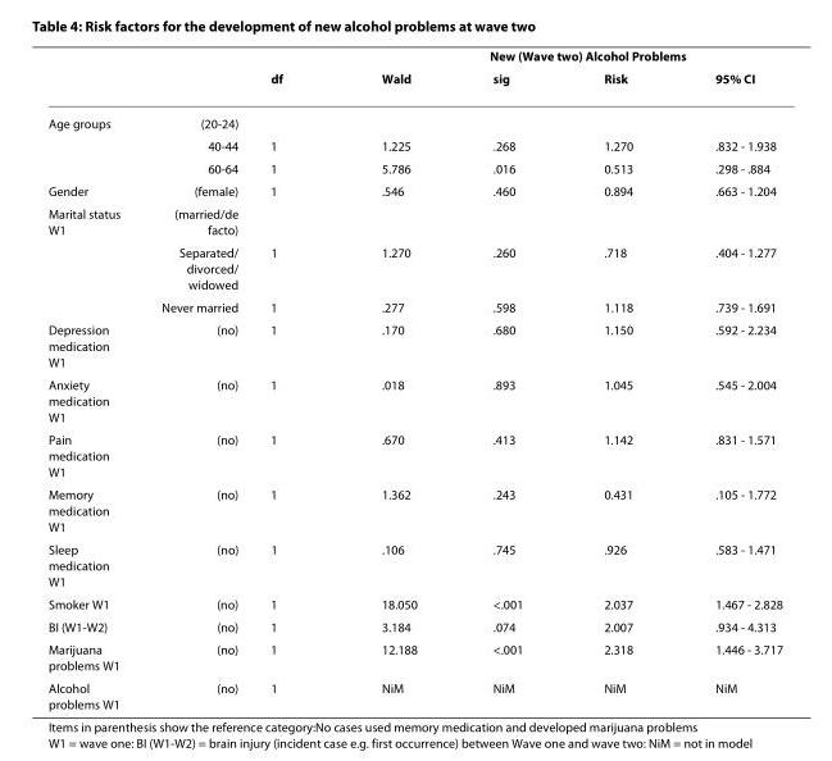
<table><thead><tr><td rowspan="2"></td><td rowspan="2"></td><td rowspan="2">df</td><td colspan="4">New (Wave two) Alcohol Problems</td></tr><tr><td>Wald</td><td>sig</td><td>Risk</td><td>95% CI</td></tr></thead><tbody><tr><td rowspan="3">Age groups</td><td>(20-24)</td><td></td><td></td><td></td><td></td><td></td></tr><tr><td>40-44</td><td>1</td><td>1.225</td><td>.268</td><td>1.270</td><td>.832 - 1.938</td></tr><tr><td>60-64</td><td>1</td><td>5.786</td><td>.016</td><td>0.513</td><td>.298 - .884</td></tr><tr><td>Gender</td><td>(female)</td><td>1</td><td>.546</td><td>.460</td><td>0.894</td><td>.663 - 1.204</td></tr><tr><td rowspan="3">Marital status W1</td><td>(married/de facto)</td><td></td><td></td><td></td><td></td><td></td></tr><tr><td>Separated/ divorced/ widowed</td><td>1</td><td>1.270</td><td>.260</td><td>.718</td><td>.404 - 1.277</td></tr><tr><td>Never married</td><td>1</td><td>.277</td><td>.598</td><td>1.118</td><td>.739 - 1.691</td></tr><tr><td>Depression medication W1</td><td>(no)</td><td>1</td><td>.170</td><td>.680</td><td>1.150</td><td>.592 - 2.234</td></tr><tr><td>Anxiety medication W1</td><td>(no)</td><td>1</td><td>.018</td><td>.893</td><td>1.045</td><td>.545 - 2.004</td></tr><tr><td>Pain medication W1</td><td>(no)</td><td>1</td><td>.670</td><td>.413</td><td>1.142</td><td>.831 - 1.571</td></tr><tr><td>Memory medication W1</td><td>(no)</td><td>1</td><td>1.362</td><td>.243</td><td>0.431</td><td>.105 - 1.772</td></tr><tr><td>Sleep medication W1</td><td>(no)</td><td>1</td><td>.106</td><td>.745</td><td>.926</td><td>.583 - 1.471</td></tr><tr><td>Smoker W1</td><td>(no)</td><td>1</td><td>18.050</td><td>&lt;.001</td><td>2.037</td><td>1.467 - 2.828</td></tr><tr><td>BI (W1-W2)</td><td>(no)</td><td>1</td><td>3.184</td><td>.074</td><td>2.007</td><td>.934 - 4.313</td></tr><tr><td>Marijuana problems W1</td><td>(no)</td><td>1</td><td>12.188</td><td>&lt;.001</td><td>2.318</td><td>1.446 - 3.717</td></tr><tr><td>Alcohol problems W1</td><td>(no)</td><td>1</td><td>NiM</td><td>NiM</td><td>NiM</td><td>NiM</td></tr></tbody></table>